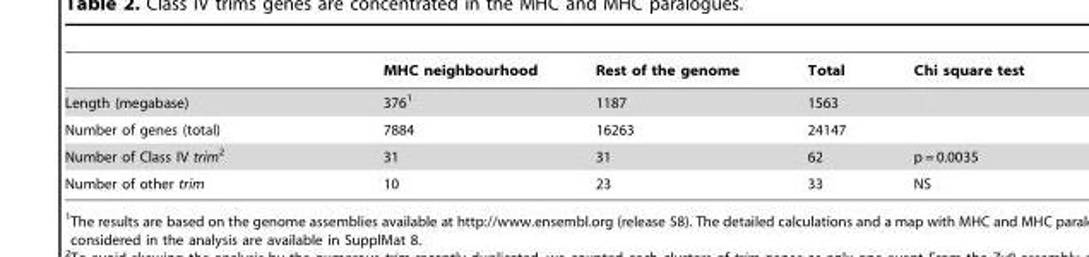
<table><thead><tr><td></td><td>MHC neighbourhood</td><td>Rest of the genome</td><td>Total</td><td>Chi square test</td></tr></thead><tbody><tr><td>Length (megabase)</td><td>376<sup>1</sup></td><td>1187</td><td>1563</td><td></td></tr><tr><td>Number of genes (total)</td><td>7884</td><td>16263</td><td>24147</td><td></td></tr><tr><td>Number of Class IV trim2</td><td>31</td><td>31</td><td>62</td><td>p = 0.0035</td></tr><tr><td>Number of other trim</td><td>10</td><td>23</td><td>33</td><td>NS</td></tr></tbody></table>